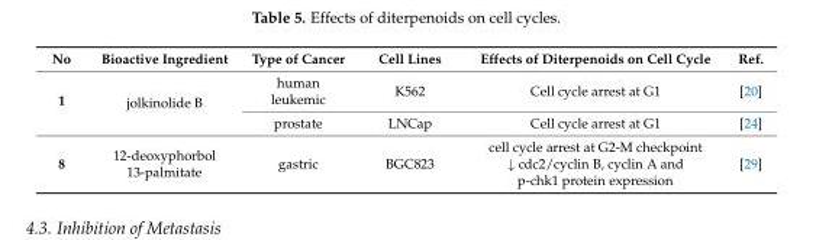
<table><thead><tr><td>No</td><td>Bioactive Ingredient</td><td>Type of Cancer</td><td>Cell Lines</td><td>Effects of Diterpenoids on Cell Cycle</td><td>Ref.</td></tr></thead><tbody><tr><td rowspan="2">1</td><td rowspan="2">jolkinolide B</td><td>human leukemic</td><td>K562</td><td>Cell cycle arrest at G1</td><td>[20]</td></tr><tr><td>prostate</td><td>LNCap</td><td>Cell cycle arrest at G1</td><td>[24]</td></tr><tr><td>8</td><td>12-deoxyphorbol 13-palmitate</td><td>gastric</td><td>BGC823</td><td>cell cycle arrest at G2-M checkpoint ↓ cdc2/cyclin B, cyclin A and p-chk1 protein expression</td><td>[29]</td></tr></tbody></table>